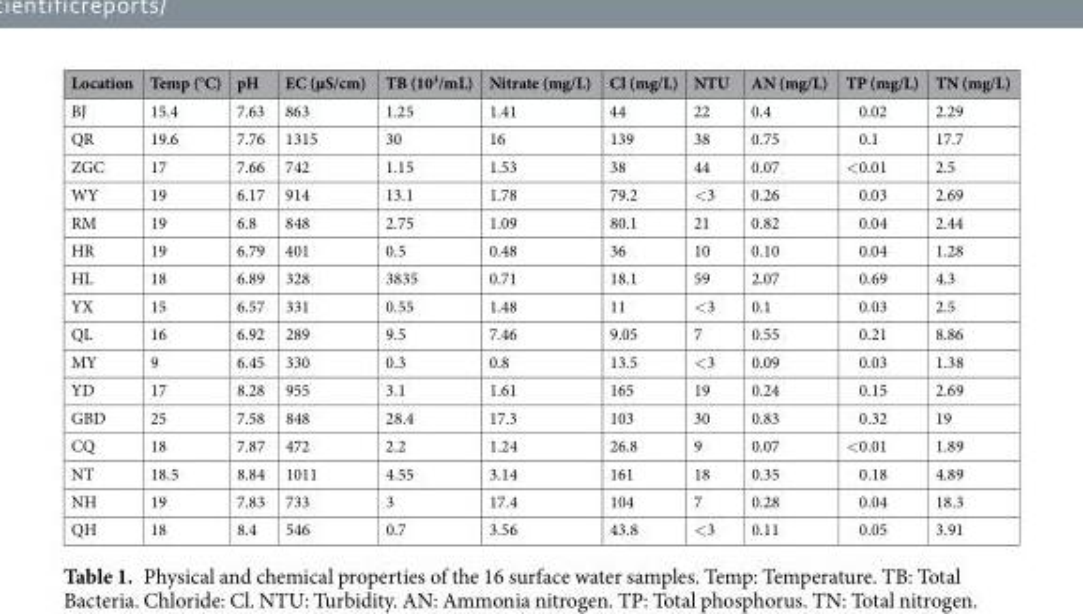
<table><thead><tr><td>Location</td><td>Temp (°C)</td><td>pH</td><td>EC (µS/cm)</td><td>TB (10<sup>3</sup>/mL)</td><td>Nitrate (mg/L)</td><td>Cl (mg/L)</td><td>NTU</td><td>AN (mg/L)</td><td>TP (mg/L)</td><td>TN (mg/L)</td></tr></thead><tbody><tr><td>BJ</td><td>15.4</td><td>7.63</td><td>863</td><td>1.25</td><td>1.41</td><td>44</td><td>22</td><td>0.4</td><td>0.02</td><td>2.29</td></tr><tr><td>QR</td><td>19.6</td><td>7.76</td><td>1315</td><td>30</td><td>16</td><td>139</td><td>38</td><td>0.75</td><td>0.1</td><td>17.7</td></tr><tr><td>ZGC</td><td>17</td><td>7.66</td><td>742</td><td>1.15</td><td>1.53</td><td>38</td><td>44</td><td>0.07</td><td>&lt;0.01</td><td>2.5</td></tr><tr><td>WY</td><td>19</td><td>6.17</td><td>914</td><td>13.1</td><td>1.78</td><td>79.2</td><td>&lt;3</td><td>0.26</td><td>0.03</td><td>2.69</td></tr><tr><td>RM</td><td>19</td><td>6.8</td><td>848</td><td>2.75</td><td>1.09</td><td>80.1</td><td>21</td><td>0.82</td><td>0.04</td><td>2.44</td></tr><tr><td>HR</td><td>19</td><td>6.79</td><td>401</td><td>0.5</td><td>0.48</td><td>36</td><td>10</td><td>0.10</td><td>0.04</td><td>1.28</td></tr><tr><td>HL</td><td>18</td><td>6.89</td><td>328</td><td>3835</td><td>0.71</td><td>18.1</td><td>59</td><td>2.07</td><td>0.69</td><td>4.3</td></tr><tr><td>YX</td><td>15</td><td>6.57</td><td>331</td><td>0.55</td><td>1.48</td><td>11</td><td>&lt;3</td><td>0.1</td><td>0.03</td><td>2.5</td></tr><tr><td>QL</td><td>16</td><td>6.92</td><td>289</td><td>9.5</td><td>7.46</td><td>9.05</td><td>7</td><td>0.55</td><td>0.21</td><td>8.86</td></tr><tr><td>MY</td><td>9</td><td>6.45</td><td>330</td><td>0.3</td><td>0.8</td><td>13.5</td><td>&lt;3</td><td>0.09</td><td>0.03</td><td>1.38</td></tr><tr><td>YD</td><td>17</td><td>8.28</td><td>955</td><td>3.1</td><td>1.61</td><td>165</td><td>19</td><td>0.24</td><td>0.15</td><td>2.69</td></tr><tr><td>GBD</td><td>25</td><td>7.58</td><td>848</td><td>28.4</td><td>17.3</td><td>103</td><td>30</td><td>0.83</td><td>0.32</td><td>19</td></tr><tr><td>CQ</td><td>18</td><td>7.87</td><td>472</td><td>2.2</td><td>1.24</td><td>26.8</td><td>9</td><td>0.07</td><td>&lt;0.01</td><td>1.89</td></tr><tr><td>NT</td><td>18.5</td><td>8.84</td><td>1011</td><td>4.55</td><td>3.14</td><td>161</td><td>18</td><td>0.35</td><td>0.18</td><td>4.89</td></tr><tr><td>NH</td><td>19</td><td>7.83</td><td>733</td><td>3</td><td>17.4</td><td>104</td><td>7</td><td>0.28</td><td>0.04</td><td>18.3</td></tr><tr><td>QH</td><td>18</td><td>8.4</td><td>546</td><td>0.7</td><td>3.56</td><td>43.8</td><td>&lt;3</td><td>0.11</td><td>0.05</td><td>3.91</td></tr></tbody></table>